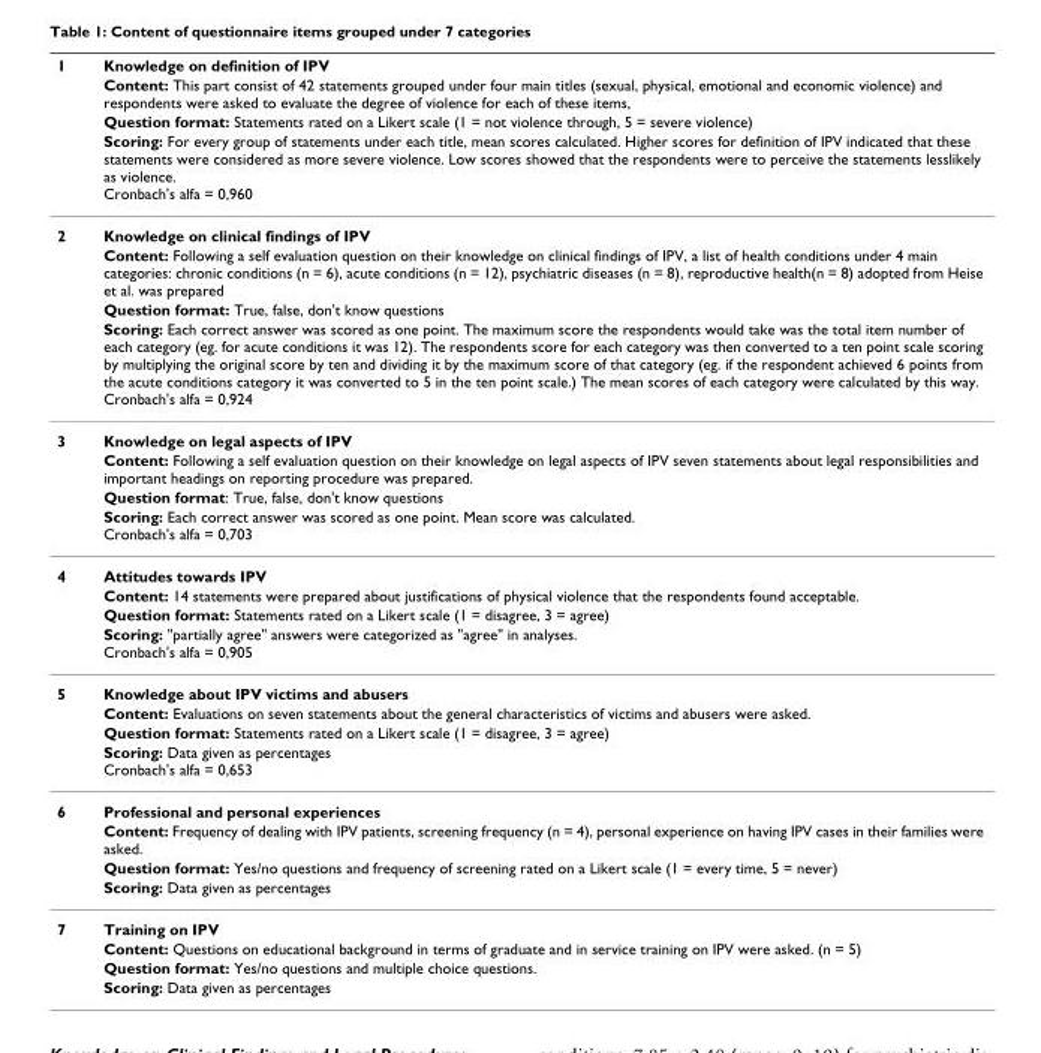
<table><thead><tr><td rowspan="4">1</td><td rowspan="4">Knowledge on definition of IPV Content: This part consist of 42 statements grouped under four main titles (sexual, physical, emotional and economic violence) and respondents were asked to evaluate the degree of violence for each of these items, Question format: Statements rated on a Likert scale (1 = not violence through, 5 = severe violence) Scoring: For every group of statements under each title, mean scores calculated. Higher scores for definition of IPV indicated that these statements were considered as more severe violence. Low scores showed that the respondents were to perceive the statements lesslikely as violence. Cronbach&#x27;s alfa = 0,960</td></tr><tr></tr><tr></tr><tr></tr></thead><tbody><tr><td rowspan="4">2</td><td>Knowledge on clinical findings of IPV</td></tr><tr><td>Content: Following a self evaluation question on their knowledge on clinical findings of IPV, a list of health conditions under 4 main categories: chronic conditions (n = 6), acute conditions (n = 12), psychiatric diseases (n = 8), reproductive health(n = 8) adopted from Heise et al. was prepared</td></tr><tr><td>Question format: True, false, don&#x27;t know questions</td></tr><tr><td>Scoring: Each correct answer was scored as one point. The maximum score the respondents would take was the total item number of each category (eg. for acute conditions it was 12). The respondents score for each category was then converted to a ten point scale scoring by multiplying the original score by ten and dividing it by the maximum score of that category (eg. if the respondent achieved 6 points from the acute conditions category it was converted to 5 in the ten point scale.) The mean scores of each category were calculated by this way. Cronbach&#x27;s alfa = 0,924</td></tr><tr><td rowspan="4">3</td><td>Knowledge on legal aspects of IPV</td></tr><tr><td>Content: Following a self evaluation question on their knowledge on legal aspects of IPV seven statements about legal responsibilities and important headings on reporting procedure was prepared.</td></tr><tr><td>Question format: True, false, don&#x27;t know questions</td></tr><tr><td>Scoring: Each correct answer was scored as one point. Mean score was calculated. Cronbach&#x27;s alfa = 0,703</td></tr><tr><td rowspan="4">4</td><td>Attitudes towards IPV</td></tr><tr><td>Content: 14 statements were prepared about justifications of physical violence that the respondents found acceptable.</td></tr><tr><td>Question format: Statements rated on a Likert scale (1 = disagree, 3 = agree)</td></tr><tr><td>Scoring: &quot;partially agree&quot; answers were categorized as &quot;agree&quot; in analyses. Cronbach&#x27;s alfa = 0,905</td></tr><tr><td rowspan="4">5</td><td>Knowledge about IPV victims and abusers</td></tr><tr><td>Content: Evaluations on seven statements about the general characteristics of victims and abusers were asked.</td></tr><tr><td>Question format: Statements rated on a Likert scale (1 = disagree, 3 = agree)</td></tr><tr><td>Scoring: Data given as percentages Cronbach&#x27;s alfa = 0,653</td></tr><tr><td rowspan="4">6</td><td>Professional and personal experiences</td></tr><tr><td>Content: Frequency of dealing with IPV patients, screening frequency (n = 4), personal experience on having IPV cases in their families were asked.</td></tr><tr><td>Question format: Yes/no questions and frequency of screening rated on a Likert scale (1 = every time, 5 = never)</td></tr><tr><td>Scoring: Data given as percentages</td></tr><tr><td rowspan="4">7</td><td>Training on IPV</td></tr><tr><td>Content: Questions on educational background in terms of graduate and in service training on IPV were asked. (n = 5)</td></tr><tr><td>Question format: Yes/no questions and multiple choice questions.</td></tr><tr><td>Scoring: Data given as percentages</td></tr></tbody></table>